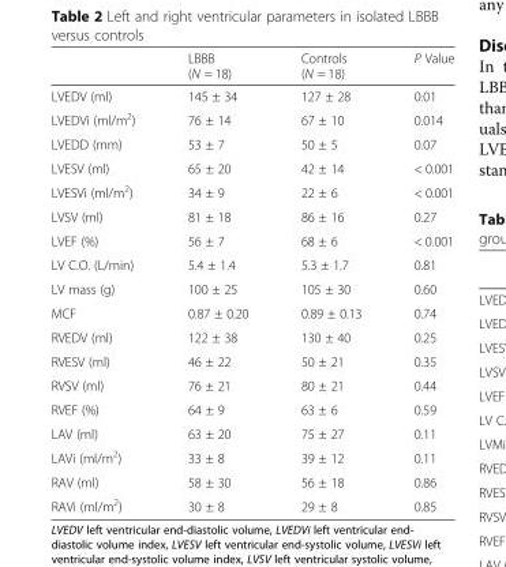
<table><thead><tr><td></td><td>LBBB (N = 18)</td><td>Controls (N = 18)</td><td>P Value</td></tr></thead><tbody><tr><td>LVEDV (ml)</td><td>145 ± 34</td><td>127 ± 28</td><td>0.01</td></tr><tr><td>LVEDVi (ml/m<sup>2</sup>)</td><td>76 ± 14</td><td>67 ± 10</td><td>0.014</td></tr><tr><td>LVEDD (mm)</td><td>53 ± 7</td><td>50 ± 5</td><td>0.07</td></tr><tr><td>LVESV (ml)</td><td>65 ± 20</td><td>42 ± 14</td><td>&lt; 0.001</td></tr><tr><td>LVESVi (ml/m<sup>2</sup>)</td><td>34 ± 9</td><td>22 ± 6</td><td>&lt; 0.001</td></tr><tr><td>LVSV (ml)</td><td>81 ± 18</td><td>86 ± 16</td><td>0.27</td></tr><tr><td>LVEF (%)</td><td>56 ± 7</td><td>68 ± 6</td><td>&lt; 0.001</td></tr><tr><td>LV C.O. (L/min)</td><td>5.4 ± 1.4</td><td>5.3 ± 1.7</td><td>0.81</td></tr><tr><td>LV mass (g)</td><td>100 ± 25</td><td>105 ± 30</td><td>0.60</td></tr><tr><td>MCF</td><td>0.87 ± 0.20</td><td>0.89 ± 0.13</td><td>0.74</td></tr><tr><td>RVEDV (ml)</td><td>122 ± 38</td><td>130 ± 40</td><td>0.25</td></tr><tr><td>RVESV (ml)</td><td>46 ± 22</td><td>50 ± 21</td><td>0.35</td></tr><tr><td>RVSV (ml)</td><td>76 ± 21</td><td>80 ± 21</td><td>0.44</td></tr><tr><td>RVEF (%)</td><td>64 ± 9</td><td>63 ± 6</td><td>0.59</td></tr><tr><td>LAV (ml)</td><td>63 ± 20</td><td>75 ± 27</td><td>0.11</td></tr><tr><td>LAVi (ml/m<sup>2</sup>)</td><td>33 ± 8</td><td>39 ± 12</td><td>0.11</td></tr><tr><td>RAV (ml)</td><td>58 ± 30</td><td>56 ± 18</td><td>0.86</td></tr><tr><td>RAVi (ml/m<sup>2</sup>)</td><td>30 ± 8</td><td>29 ± 8</td><td>0.85</td></tr></tbody></table>